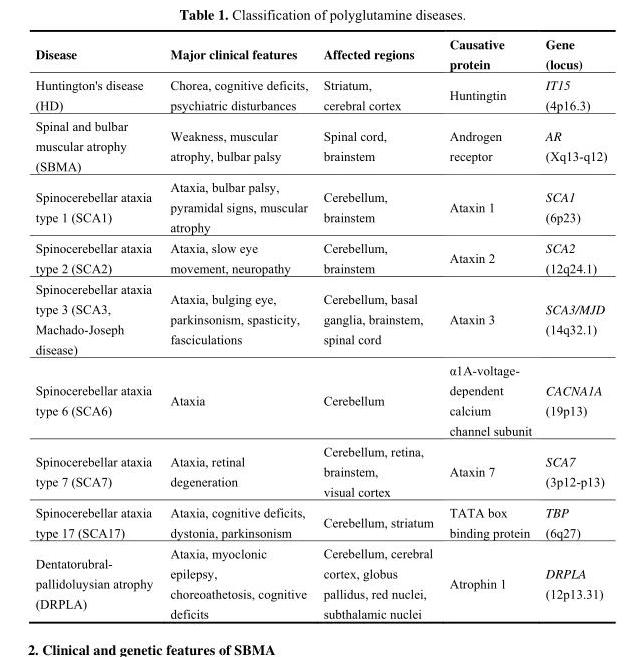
<table><thead><tr><td>Disease</td><td>Major clinical features</td><td>Affected regions</td><td>Causative protein</td><td>Gene (locus)</td></tr></thead><tbody><tr><td>Huntington&#x27;s disease (HD)</td><td>Chorea, cognitive deficits, psychiatric disturbances</td><td>Striatum, cerebral cortex</td><td>Huntingtin</td><td>IT15 (4p16.3)</td></tr><tr><td>Spinal and bulbar muscular atrophy (SBMA)</td><td>Weakness, muscular atrophy, bulbar palsy</td><td>Spinal cord, brainstem</td><td>Androgen receptor</td><td>AR (Xq13-q12)</td></tr><tr><td>Spinocerebellar ataxia type 1 (SCA1)</td><td>Ataxia, bulbar palsy, pyramidal signs, muscular atrophy</td><td>Cerebellum, brainstem</td><td>Ataxin 1</td><td>SCA1 (6p23)</td></tr><tr><td>Spinocerebellar ataxia type 2 (SCA2)</td><td>Ataxia, slow eye movement, neuropathy</td><td>Cerebellum, brainstem</td><td>Ataxin 2</td><td>SCA2 (12q24.1)</td></tr><tr><td>Spinocerebellar ataxia type 3 (SCA3, Machado-Joseph disease)</td><td>Ataxia, bulging eye, parkinsonism, spasticity, fasciculations</td><td>Cerebellum, basal ganglia, brainstem, spinal cord</td><td>Ataxin 3</td><td>SCA3/MJD (14q32.1)</td></tr><tr><td>Spinocerebellar ataxia type 6 (SCA6)</td><td>Ataxia</td><td>Cerebellum</td><td>α1A-voltage- dependent calcium channel subunit</td><td>CACNA1A (19p13)</td></tr><tr><td>Spinocerebellar ataxia type 7 (SCA7)</td><td>Ataxia, retinal degeneration</td><td>Cerebellum, retina, brainstem, visual cortex</td><td>Ataxin 7</td><td>SCA7 (3p12-p13)</td></tr><tr><td>Spinocerebellar ataxia type 17 (SCA17)</td><td>Ataxia, cognitive deficits, dystonia, parkinsonism</td><td>Cerebellum, striatum</td><td>TATA box binding protein</td><td>TBP (6q27)</td></tr><tr><td>Dentatorubral- pallidoluysian atrophy (DRPLA)</td><td>Ataxia, myoclonic epilepsy, choreoathetosis, cognitive deficits</td><td>Cerebellum, cerebral cortex, globus pallidus, red nuclei, subthalamic nuclei</td><td>Atrophin 1</td><td>DRPLA (12p13.31)</td></tr></tbody></table>